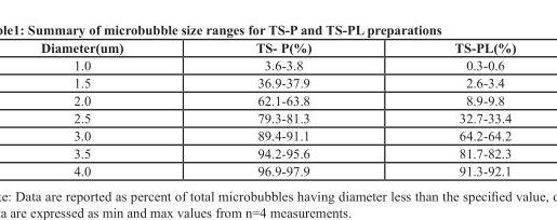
<table><thead><tr><td>Diameter(um)</td><td>TS- P(%)</td><td>TS-PL(%)</td></tr></thead><tbody><tr><td>1.0</td><td>3.6-3.8</td><td>0.3-0.6</td></tr><tr><td>1.5</td><td>36.9-37.9</td><td>2.6-3.4</td></tr><tr><td>2.0</td><td>62.1-63.8</td><td>8.9-9.8</td></tr><tr><td>2.5</td><td>79.3-81.3</td><td>32.7-33.4</td></tr><tr><td>3.0</td><td>89.4-91.1</td><td>64.2-64.2</td></tr><tr><td>3.5</td><td>94.2-95.6</td><td>81.7-82.3</td></tr><tr><td>4.0</td><td>96.9-97.9</td><td>91.3-92.1</td></tr></tbody></table>